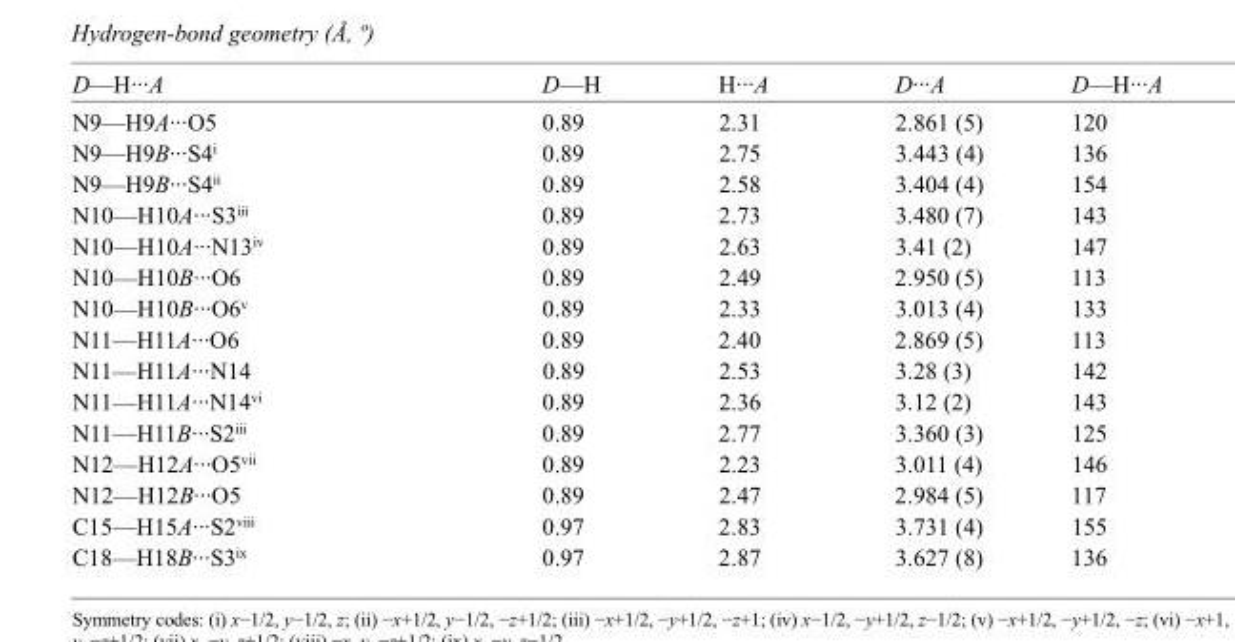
<table><tbody><tr><td>D—H···A</td><td>D—H</td><td>H···A</td><td>D···A</td><td>D—H···A</td></tr><tr><td>N9—H9A···O5</td><td>0.89</td><td>2.31</td><td>2.861 (5)</td><td>120</td></tr><tr><td>N9—H9B···S4<sup>i</sup></td><td>0.89</td><td>2.75</td><td>3.443 (4)</td><td>136</td></tr><tr><td>N9—H9B···S4<sup>ii</sup></td><td>0.89</td><td>2.58</td><td>3.404 (4)</td><td>154</td></tr><tr><td>N10—H10A···S3<sup>iii</sup></td><td>0.89</td><td>2.73</td><td>3.480 (7)</td><td>143</td></tr><tr><td>N10—H10A···N13<sup>iv</sup></td><td>0.89</td><td>2.63</td><td>3.41 (2)</td><td>147</td></tr><tr><td>N10—H10B···O6</td><td>0.89</td><td>2.49</td><td>2.950 (5)</td><td>113</td></tr><tr><td>N10—H10B···O6<sup>v</sup></td><td>0.89</td><td>2.33</td><td>3.013 (4)</td><td>133</td></tr><tr><td>N11—H11A···O6</td><td>0.89</td><td>2.40</td><td>2.869 (5)</td><td>113</td></tr><tr><td>N11—H11A···N14</td><td>0.89</td><td>2.53</td><td>3.28 (3)</td><td>142</td></tr><tr><td>N11—H11A···N14<sup>vi</sup></td><td>0.89</td><td>2.36</td><td>3.12 (2)</td><td>143</td></tr><tr><td>N11—H11B···S2<sup>iii</sup></td><td>0.89</td><td>2.77</td><td>3.360 (3)</td><td>125</td></tr><tr><td>N12—H12A···O5<sup>vii</sup></td><td>0.89</td><td>2.23</td><td>3.011 (4)</td><td>146</td></tr><tr><td>N12—H12B···O5</td><td>0.89</td><td>2.47</td><td>2.984 (5)</td><td>117</td></tr><tr><td>C15—H15A···S2<sup>viii</sup></td><td>0.97</td><td>2.83</td><td>3.731 (4)</td><td>155</td></tr><tr><td>C18—H18B···S3<sup>ix</sup></td><td>0.97</td><td>2.87</td><td>3.627 (8)</td><td>136</td></tr></tbody></table>